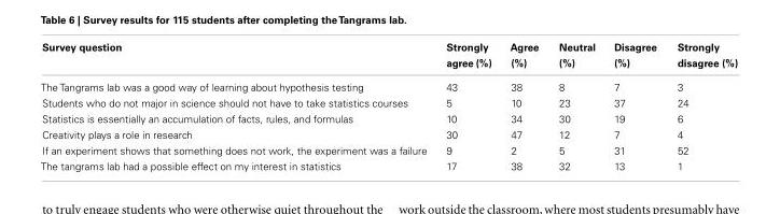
<table><thead><tr><td>Survey question</td><td>Strongly agree (%)</td><td>Agree (%)</td><td>Neutral (%)</td><td>Disagree (%)</td><td>Strongly disagree (%)</td></tr></thead><tbody><tr><td>The Tangrams lab was a good way of learning about hypothesis testing</td><td>43</td><td>38</td><td>8</td><td>7</td><td>3</td></tr><tr><td>Students who do not major in science should not have to take statistics courses</td><td>5</td><td>10</td><td>23</td><td>37</td><td>24</td></tr><tr><td>Statistics is essentially an accumulation of facts, rules, and formulas</td><td>10</td><td>34</td><td>30</td><td>19</td><td>6</td></tr><tr><td>Creativity plays a role in research</td><td>30</td><td>47</td><td>12</td><td>7</td><td>4</td></tr><tr><td>If an experiment shows that something does not work, the experiment was a failure</td><td>9</td><td>2</td><td>5</td><td>31</td><td>52</td></tr><tr><td>The tangrams lab had a possible effect on my interest in statistics</td><td>17</td><td>38</td><td>32</td><td>13</td><td>1</td></tr></tbody></table>